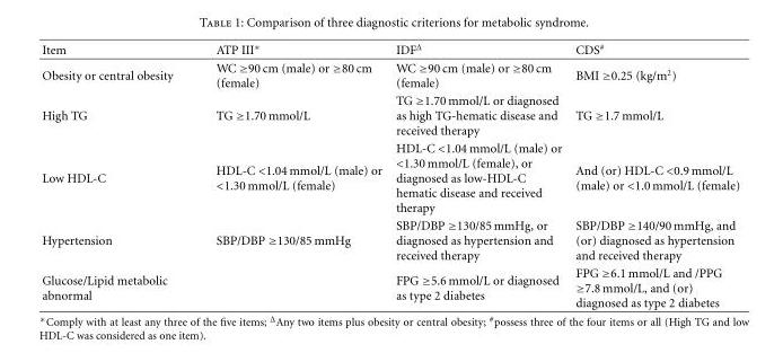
<table><thead><tr><td>Item</td><td>ATP III∗</td><td>IDF<sup>Δ</sup></td><td>CDS<sup>#</sup></td></tr></thead><tbody><tr><td>Obesity or central obesity</td><td>WC ≥90 cm (male) or ≥80 cm (female)</td><td>WC ≥90 cm (male) or ≥80 cm (female)</td><td>BMI ≥0.25 (kg/m<sup>2</sup>)</td></tr><tr><td>High TG</td><td>TG ≥1.70 mmol/L</td><td>TG ≥1.70 mmol/L or diagnosed as high TG-hematic disease and received therapy</td><td>TG ≥1.7 mmol/L</td></tr><tr><td>Low HDL-C</td><td>HDL-C &lt;1.04 mmol/L (male) or &lt;1.30 mmol/L (female)</td><td>HDL-C &lt;1.04 mmol/L (male) or &lt;1.30 mmol/L (female), or diagnosed as low-HDL-C hematic disease and received therapy</td><td>And (or) HDL-C &lt;0.9 mmol/L (male) or &lt;1.0 mmol/L (female)</td></tr><tr><td>Hypertension</td><td>SBP/DBP ≥130/85 mmHg</td><td>SBP/DBP ≥130/85 mmHg, or diagnosed as hypertension and received therapy</td><td>SBP/DBP ≥140/90 mmHg, and (or) diagnosed as hypertension and received therapy</td></tr><tr><td>Glucose/Lipid metabolic abnormal</td><td></td><td>FPG ≥5.6 mmol/L or diagnosed as type 2 diabetes</td><td>FPG ≥6.1 mmol/L and /PPG ≥7.8 mmol/L, and (or) diagnosed as type 2 diabetes</td></tr></tbody></table>